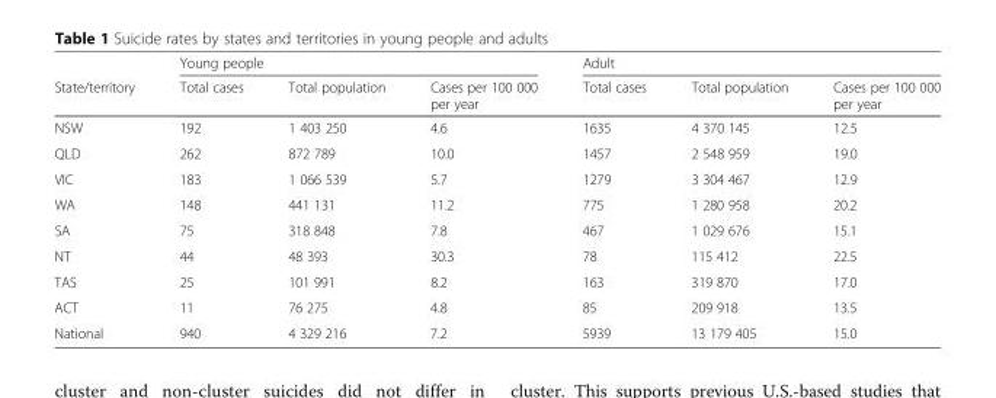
<table><thead><tr><td rowspan="2">State/territory</td><td colspan="3">Young people</td><td colspan="3">Adult</td></tr><tr><td>Total cases</td><td>Total population</td><td>Cases per 100 000 per year</td><td>Total cases</td><td>Total population</td><td>Cases per 100 000 per year</td></tr></thead><tbody><tr><td>NSW</td><td>192</td><td>1 403 250</td><td>4.6</td><td>1635</td><td>4 370 145</td><td>12.5</td></tr><tr><td>QLD</td><td>262</td><td>872 789</td><td>10.0</td><td>1457</td><td>2 548 959</td><td>19.0</td></tr><tr><td>VIC</td><td>183</td><td>1 066 539</td><td>5.7</td><td>1279</td><td>3 304 467</td><td>12.9</td></tr><tr><td>WA</td><td>148</td><td>441 131</td><td>11.2</td><td>775</td><td>1 280 958</td><td>20.2</td></tr><tr><td>SA</td><td>75</td><td>318 848</td><td>7.8</td><td>467</td><td>1 029 676</td><td>15.1</td></tr><tr><td>NT</td><td>44</td><td>48 393</td><td>30.3</td><td>78</td><td>115 412</td><td>22.5</td></tr><tr><td>TAS</td><td>25</td><td>101 991</td><td>8.2</td><td>163</td><td>319 870</td><td>17.0</td></tr><tr><td>ACT</td><td>11</td><td>76 275</td><td>4.8</td><td>85</td><td>209 918</td><td>13.5</td></tr><tr><td>National</td><td>940</td><td>4 329 216</td><td>7.2</td><td>5939</td><td>13 179 405</td><td>15.0</td></tr></tbody></table>